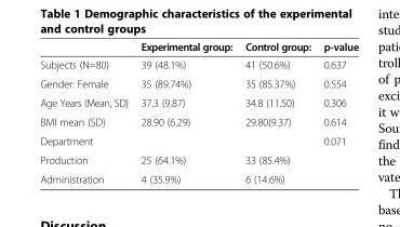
<table><thead><tr><td></td><td>Experimental group:</td><td>Control group:</td><td>p-value</td></tr></thead><tbody><tr><td>Subjects (N=80)</td><td>39 (48.1%)</td><td>41 (50.6%)</td><td>0.637</td></tr><tr><td>Gender: Female</td><td>35 (89.74%)</td><td>35 (85.37%)</td><td>0.554</td></tr><tr><td>Age Years (Mean, SD)</td><td>37.3 (9.87)</td><td>34.8 (11.50)</td><td>0.306</td></tr><tr><td>BMI mean (SD)</td><td>28.90 (6.29)</td><td>29.80(9.37)</td><td>0.614</td></tr><tr><td>Department</td><td></td><td></td><td>0.071</td></tr><tr><td>Production</td><td>25 (64.1%)</td><td>33 (85.4%)</td><td></td></tr><tr><td>Administration</td><td>4 (35.9%)</td><td>6 (14.6%)</td><td></td></tr></tbody></table>